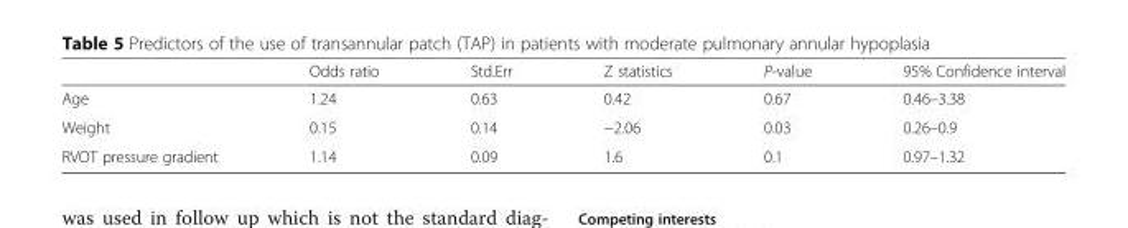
<table><thead><tr><td></td><td>Odds ratio</td><td>Std.Err</td><td>Z statistics</td><td>P-value</td><td>95% Confidence interval</td></tr></thead><tbody><tr><td>Age</td><td>1.24</td><td>0.63</td><td>0.42</td><td>0.67</td><td>0.46–3.38</td></tr><tr><td>Weight</td><td>0.15</td><td>0.14</td><td>−2.06</td><td>0.03</td><td>0.26–0.9</td></tr><tr><td>RVOT pressure gradient</td><td>1.14</td><td>0.09</td><td>1.6</td><td>0.1</td><td>0.97–1.32</td></tr></tbody></table>